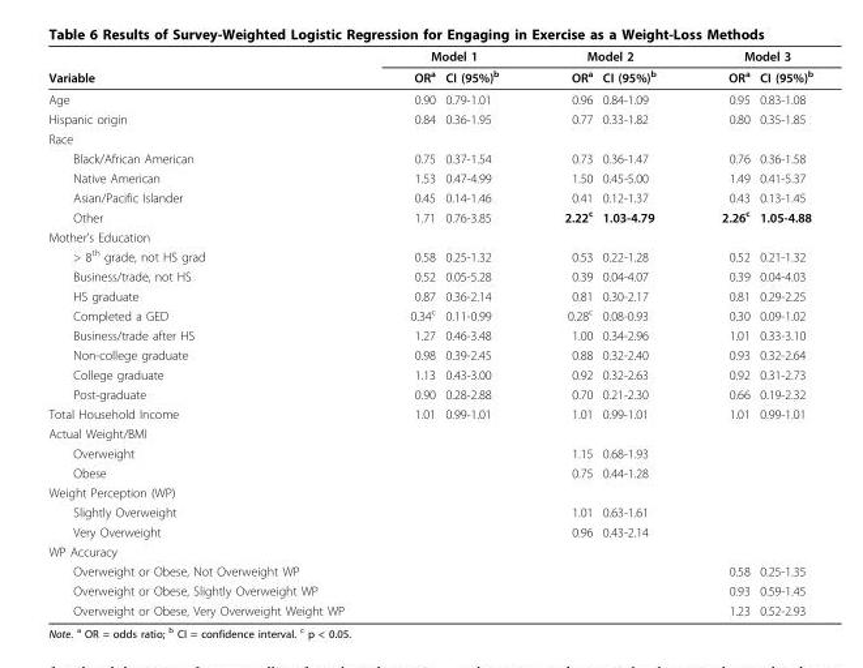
<table><thead><tr><td rowspan="2">Variable</td><td colspan="2">Model 1</td><td colspan="2">Model 2</td><td colspan="2">Model 3</td></tr><tr><td>OR<sup>a</sup></td><td>CI (95%)<sup>b</sup></td><td>OR<sup>a</sup></td><td>CI (95%)<sup>b</sup></td><td>OR<sup>a</sup></td><td>CI (95%)<sup>b</sup></td></tr></thead><tbody><tr><td>Age</td><td>0.90</td><td>0.79-1.01</td><td>0.96</td><td>0.84-1.09</td><td>0.95</td><td>0.83-1.08</td></tr><tr><td>Hispanic origin</td><td>0.84</td><td>0.36-1.95</td><td>0.77</td><td>0.33-1.82</td><td>0.80</td><td>0.35-1.85</td></tr><tr><td colspan="7">Race</td></tr><tr><td>Black/African American</td><td>0.75</td><td>0.37-1.54</td><td>0.73</td><td>0.36-1.47</td><td>0.76</td><td>0.36-1.58</td></tr><tr><td>Native American</td><td>1.53</td><td>0.47-4.99</td><td>1.50</td><td>0.45-5.00</td><td>1.49</td><td>0.41-5.37</td></tr><tr><td>Asian/Pacific Islander</td><td>0.45</td><td>0.14-1.46</td><td>0.41</td><td>0.12-1.37</td><td>0.43</td><td>0.13-1.45</td></tr><tr><td>Other</td><td>1.71</td><td>0.76-3.85</td><td>2.22<sup>c</sup></td><td>1.03-4.79</td><td>2.26<sup>c</sup></td><td>1.05-4.88</td></tr><tr><td colspan="7">Mother’s Education</td></tr><tr><td>&gt; 8<sup>th</sup> grade, not HS grad</td><td>0.58</td><td>0.25-1.32</td><td>0.53</td><td>0.22-1.28</td><td>0.52</td><td>0.21-1.32</td></tr><tr><td>Business/trade, not HS</td><td>0.52</td><td>0.05-5.28</td><td>0.39</td><td>0.04-4.07</td><td>0.39</td><td>0.04-4.03</td></tr><tr><td>HS graduate</td><td>0.87</td><td>0.36-2.14</td><td>0.81</td><td>0.30-2.17</td><td>0.81</td><td>0.29-2.25</td></tr><tr><td>Completed a GED</td><td>0.34<sup>c</sup></td><td>0.11-0.99</td><td>0.28<sup>c</sup></td><td>0.08-0.93</td><td>0.30</td><td>0.09-1.02</td></tr><tr><td>Business/trade after HS</td><td>1.27</td><td>0.46-3.48</td><td>1.00</td><td>0.34-2.96</td><td>1.01</td><td>0.33-3.10</td></tr><tr><td>Non-college graduate</td><td>0.98</td><td>0.39-2.45</td><td>0.88</td><td>0.32-2.40</td><td>0.93</td><td>0.32-2.64</td></tr><tr><td>College graduate</td><td>1.13</td><td>0.43-3.00</td><td>0.92</td><td>0.32-2.63</td><td>0.92</td><td>0.31-2.73</td></tr><tr><td>Post-graduate</td><td>0.90</td><td>0.28-2.88</td><td>0.70</td><td>0.21-2.30</td><td>0.66</td><td>0.19-2.32</td></tr><tr><td>Total Household Income</td><td>1.01</td><td>0.99-1.01</td><td>1.01</td><td>0.99-1.01</td><td>1.01</td><td>0.99-1.01</td></tr><tr><td colspan="7">Actual Weight/BMI</td></tr><tr><td>Overweight</td><td></td><td></td><td>1.15</td><td>0.68-1.93</td><td></td><td></td></tr><tr><td>Obese</td><td></td><td></td><td>0.75</td><td>0.44-1.28</td><td></td><td></td></tr><tr><td colspan="7">Weight Perception (WP)</td></tr><tr><td>Slightly Overweight</td><td></td><td></td><td>1.01</td><td>0.63-1.61</td><td></td><td></td></tr><tr><td>Very Overweight</td><td></td><td></td><td>0.96</td><td>0.43-2.14</td><td></td><td></td></tr><tr><td colspan="7">WP Accuracy</td></tr><tr><td>Overweight or Obese, Not Overweight WP</td><td></td><td></td><td></td><td></td><td>0.58</td><td>0.25-1.35</td></tr><tr><td>Overweight or Obese, Slightly Overweight WP</td><td></td><td></td><td></td><td></td><td>0.93</td><td>0.59-1.45</td></tr><tr><td>Overweight or Obese, Very Overweight Weight WP</td><td></td><td></td><td></td><td></td><td>1.23</td><td>0.52-2.93</td></tr></tbody></table>